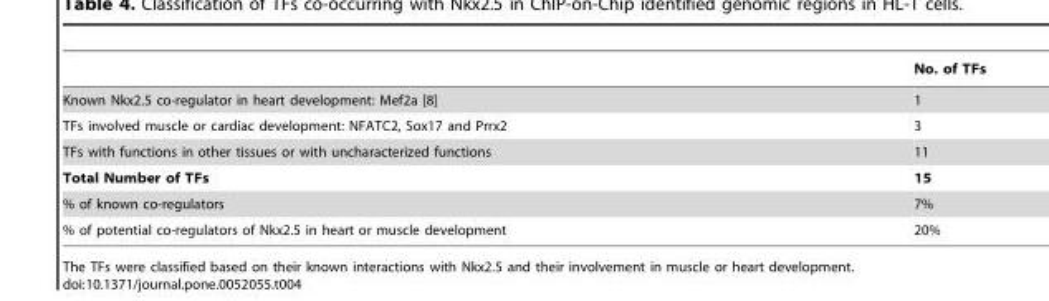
<table><thead><tr><td></td><td>No. of TFs</td></tr></thead><tbody><tr><td>Known Nkx2.5 co-regulator in heart development: Mef2a [8]</td><td>1</td></tr><tr><td>TFs involved muscle or cardiac development: NFATC2, Sox17 and Prrx2</td><td>3</td></tr><tr><td>TFs with functions in other tissues or with uncharacterized functions</td><td>11</td></tr><tr><td>Total Number of TFs</td><td>15</td></tr><tr><td>% of known co-regulators</td><td>7%</td></tr><tr><td>% of potential co-regulators of Nkx2.5 in heart or muscle development</td><td>20%</td></tr></tbody></table>